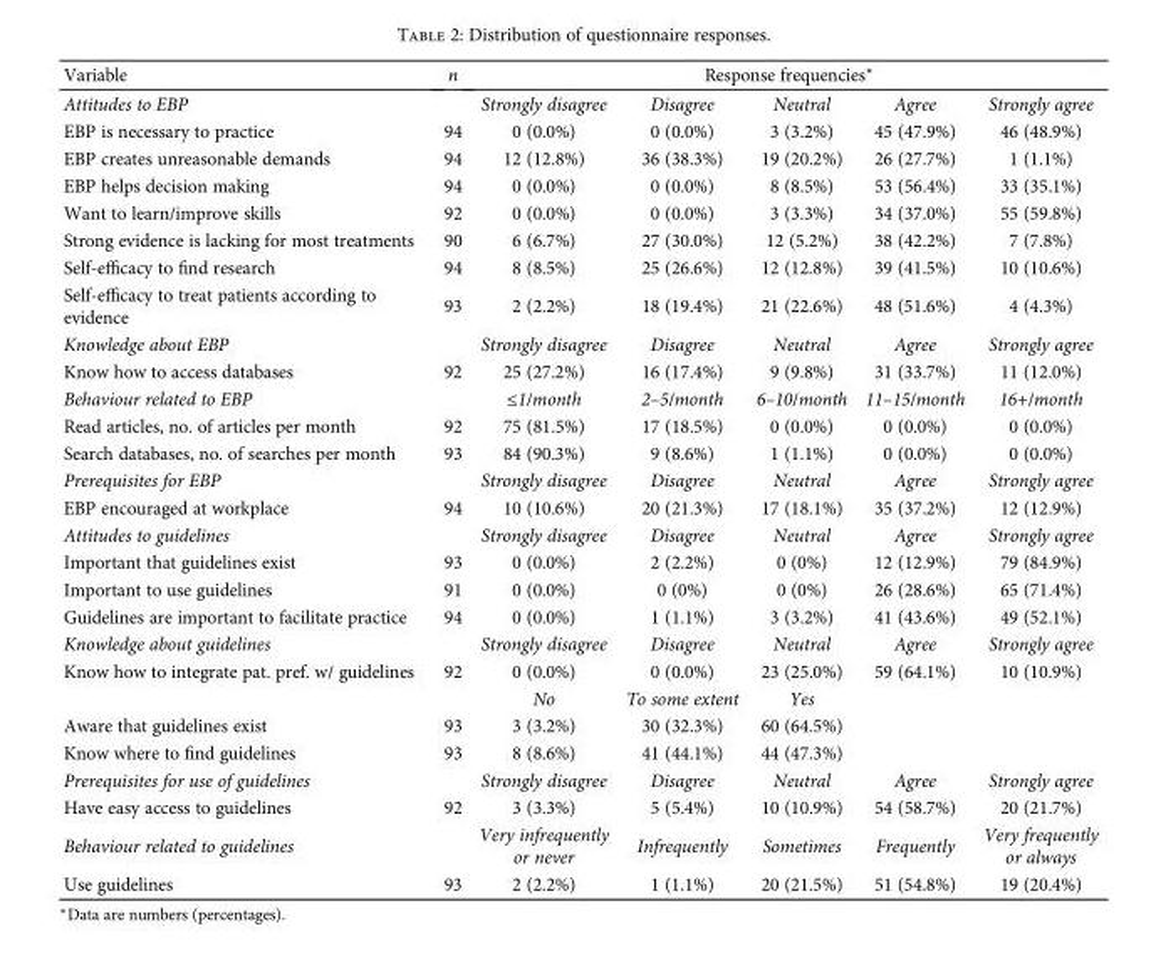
<table><thead><tr><td rowspan="2">Variable Attitudes to EBP</td><td rowspan="2">n</td><td colspan="5">Response frequencies∗</td></tr><tr><td>Strongly disagree</td><td>Disagree</td><td>Neutral</td><td>Agree</td><td>Strongly agree</td></tr></thead><tbody><tr><td>EBP is necessary to practice</td><td>94</td><td>0 (0.0%)</td><td>0 (0.0%)</td><td>3 (3.2%)</td><td>45 (47.9%)</td><td>46 (48.9%)</td></tr><tr><td>EBP creates unreasonable demands</td><td>94</td><td>12 (12.8%)</td><td>36 (38.3%)</td><td>19 (20.2%)</td><td>26 (27.7%)</td><td>1 (1.1%)</td></tr><tr><td>EBP helps decision making</td><td>94</td><td>0 (0.0%)</td><td>0 (0.0%)</td><td>8 (8.5%)</td><td>53 (56.4%)</td><td>33 (35.1%)</td></tr><tr><td>Want to learn/improve skills</td><td>92</td><td>0 (0.0%)</td><td>0 (0.0%)</td><td>3 (3.3%)</td><td>34 (37.0%)</td><td>55 (59.8%)</td></tr><tr><td>Strong evidence is lacking for most treatments</td><td>90</td><td>6 (6.7%)</td><td>27 (30.0%)</td><td>12 (5.2%)</td><td>38 (42.2%)</td><td>7 (7.8%)</td></tr><tr><td>Self-efficacy to find research</td><td>94</td><td>8 (8.5%)</td><td>25 (26.6%)</td><td>12 (12.8%)</td><td>39 (41.5%)</td><td>10 (10.6%)</td></tr><tr><td>Self-efficacy to treat patients according to evidence</td><td>93</td><td>2 (2.2%)</td><td>18 (19.4%)</td><td>21 (22.6%)</td><td>48 (51.6%)</td><td>4 (4.3%)</td></tr><tr><td>Knowledge about EBP</td><td></td><td>Strongly disagree</td><td>Disagree</td><td>Neutral</td><td>Agree</td><td>Strongly agree</td></tr><tr><td>Know how to access databases</td><td>92</td><td>25 (27.2%)</td><td>16 (17.4%)</td><td>9 (9.8%)</td><td>31 (33.7%)</td><td>11 (12.0%)</td></tr><tr><td>Behaviour related to EBP</td><td></td><td>≤1/month</td><td>2–5/month</td><td>6–10/month</td><td>11–15/month</td><td>16+/month</td></tr><tr><td>Read articles, no. of articles per month</td><td>92</td><td>75 (81.5%)</td><td>17 (18.5%)</td><td>0 (0.0%)</td><td>0 (0.0%)</td><td>0 (0.0%)</td></tr><tr><td>Search databases, no. of searches per month</td><td>93</td><td>84 (90.3%)</td><td>9 (8.6%)</td><td>1 (1.1%)</td><td>0 (0.0%)</td><td>0 (0.0%)</td></tr><tr><td>Prerequisites for EBP</td><td></td><td>Strongly disagree</td><td>Disagree</td><td>Neutral</td><td>Agree</td><td>Strongly agree</td></tr><tr><td>EBP encouraged at workplace</td><td>94</td><td>10 (10.6%)</td><td>20 (21.3%)</td><td>17 (18.1%)</td><td>35 (37.2%)</td><td>12 (12.9%)</td></tr><tr><td>Attitudes to guidelines</td><td></td><td>Strongly disagree</td><td>Disagree</td><td>Neutral</td><td>Agree</td><td>Strongly agree</td></tr><tr><td>Important that guidelines exist</td><td>93</td><td>0 (0.0%)</td><td>2 (2.2%)</td><td>0 (0%)</td><td>12 (12.9%)</td><td>79 (84.9%)</td></tr><tr><td>Important to use guidelines</td><td>91</td><td>0 (0.0%)</td><td>0 (0%)</td><td>0 (0%)</td><td>26 (28.6%)</td><td>65 (71.4%)</td></tr><tr><td>Guidelines are important to facilitate practice</td><td>94</td><td>0 (0.0%)</td><td>1 (1.1%)</td><td>3 (3.2%)</td><td>41 (43.6%)</td><td>49 (52.1%)</td></tr><tr><td>Knowledge about guidelines</td><td></td><td>Strongly disagree</td><td>Disagree</td><td>Neutral</td><td>Agree</td><td>Strongly agree</td></tr><tr><td rowspan="2">Know how to integrate pat. pref. w/ guidelines</td><td>92</td><td>0 (0.0%)</td><td>0 (0.0%)</td><td>23 (25.0%)</td><td>59 (64.1%)</td><td>10 (10.9%)</td></tr><tr><td></td><td>No</td><td>To some extent</td><td>Yes</td><td></td><td></td></tr><tr><td>Aware that guidelines exist</td><td>93</td><td>3 (3.2%)</td><td>30 (32.3%)</td><td>60 (64.5%)</td><td></td><td></td></tr><tr><td>Know where to find guidelines</td><td>93</td><td>8 (8.6%)</td><td>41 (44.1%)</td><td>44 (47.3%)</td><td></td><td></td></tr><tr><td>Prerequisites for use of guidelines</td><td></td><td>Strongly disagree</td><td>Disagree</td><td>Neutral</td><td>Agree</td><td>Strongly agree</td></tr><tr><td>Have easy access to guidelines</td><td>92</td><td>3 (3.3%)</td><td>5 (5.4%)</td><td>10 (10.9%)</td><td>54 (58.7%)</td><td>20 (21.7%)</td></tr><tr><td>Behaviour related to guidelines</td><td></td><td>Very infrequently or never</td><td>Infrequently</td><td>Sometimes</td><td>Frequently</td><td>Very frequently or always</td></tr><tr><td>Use guidelines</td><td>93</td><td>2 (2.2%)</td><td>1 (1.1%)</td><td>20 (21.5%)</td><td>51 (54.8%)</td><td>19 (20.4%)</td></tr></tbody></table>